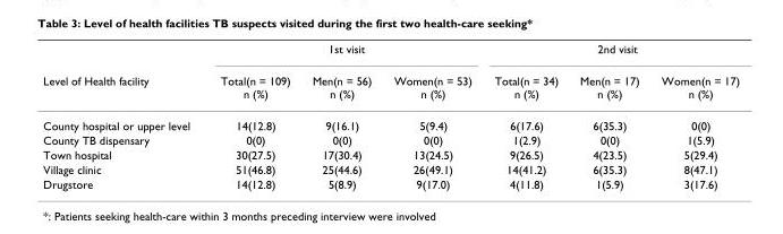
<table><thead><tr><td rowspan="2">Level of Health facility</td><td colspan="3">1st visit</td><td colspan="3">2nd visit</td></tr><tr><td>Total(n = 109) n (%)</td><td>Men(n = 56) n (%)</td><td>Women(n = 53) n (%)</td><td>Total(n = 34) n (%)</td><td>Men(n = 17) n (%)</td><td>Women(n = 17) n (%)</td></tr></thead><tbody><tr><td>County hospital or upper level</td><td>14(12.8)</td><td>9(16.1)</td><td>5(9.4)</td><td>6(17.6)</td><td>6(35.3)</td><td>0(0)</td></tr><tr><td>County TB dispensary</td><td>0(0)</td><td>0(0)</td><td>0(0)</td><td>1(2.9)</td><td>0(0)</td><td>1(5.9)</td></tr><tr><td>Town hospital</td><td>30(27.5)</td><td>17(30.4)</td><td>13(24.5)</td><td>9(26.5)</td><td>4(23.5)</td><td>5(29.4)</td></tr><tr><td>Village clinic</td><td>51(46.8)</td><td>25(44.6)</td><td>26(49.1)</td><td>14(41.2)</td><td>6(35.3)</td><td>8(47.1)</td></tr><tr><td>Drugstore</td><td>14(12.8)</td><td>5(8.9)</td><td>9(17.0)</td><td>4(11.8)</td><td>1(5.9)</td><td>3(17.6)</td></tr></tbody></table>